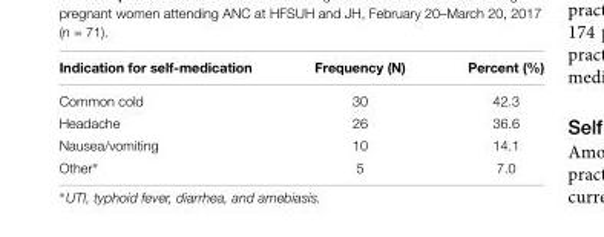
<table><thead><tr><td>Indication for self-medication</td><td>Frequency (N)</td><td>Percent (%)</td></tr></thead><tbody><tr><td>Common cold</td><td>30</td><td>42.3</td></tr><tr><td>Headache</td><td>26</td><td>36.6</td></tr><tr><td>Nausea/vomiting</td><td>10</td><td>14.1</td></tr><tr><td>Other∗</td><td>5</td><td>7.0</td></tr></tbody></table>